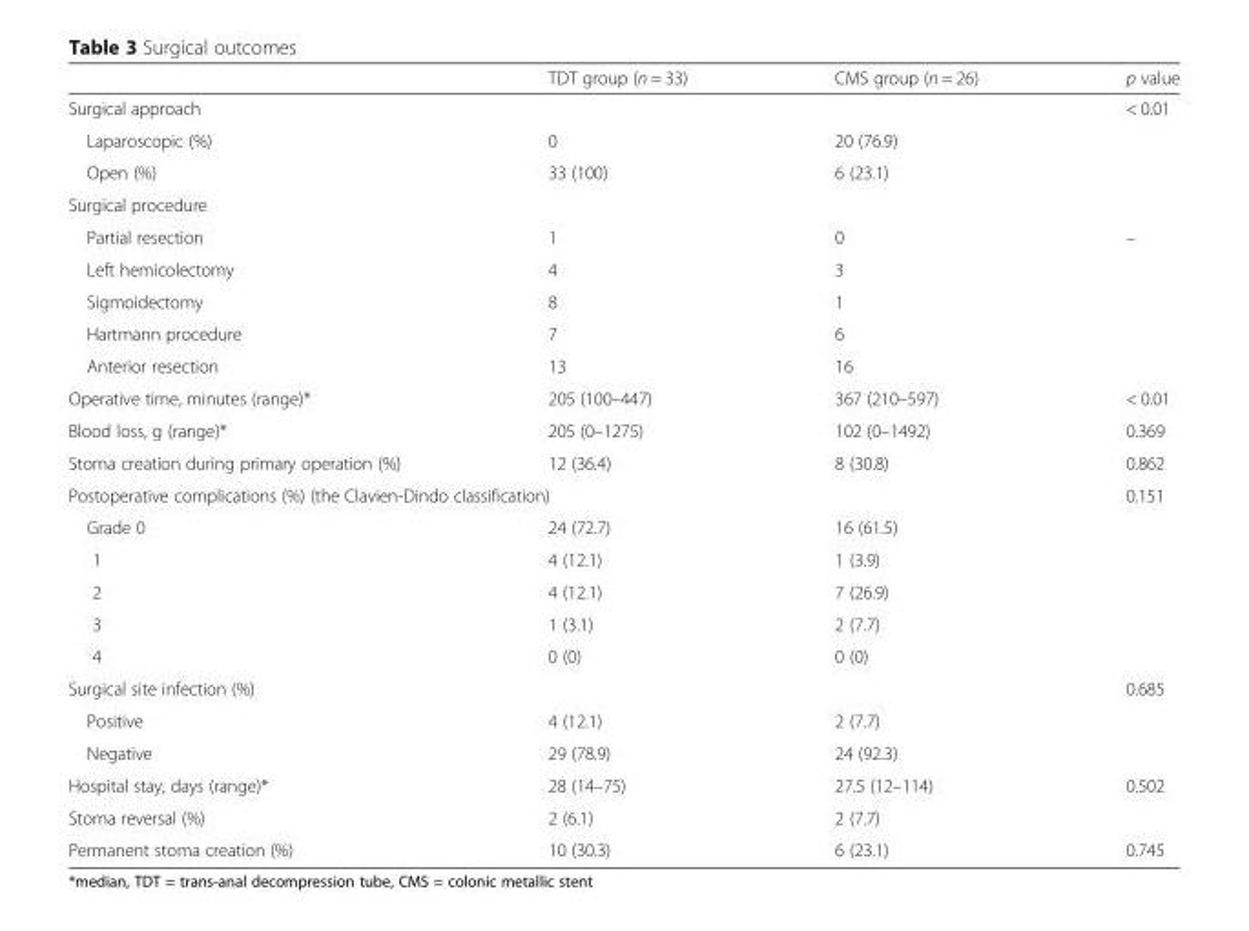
<table><thead><tr><td></td><td>TDT group (n = 33)</td><td>CMS group (n = 26)</td><td>p value</td></tr></thead><tbody><tr><td colspan="3">Surgical approach</td><td>&lt; 0.01</td></tr><tr><td>Laparoscopic (%)</td><td>0</td><td>20 (76.9)</td><td></td></tr><tr><td>Open (%)</td><td>33 (100)</td><td>6 (23.1)</td><td></td></tr><tr><td colspan="4">Surgical procedure</td></tr><tr><td>Partial resection</td><td>1</td><td>0</td><td>–</td></tr><tr><td>Left hemicolectomy</td><td>4</td><td>3</td><td></td></tr><tr><td>Sigmoidectomy</td><td>8</td><td>1</td><td></td></tr><tr><td>Hartmann procedure</td><td>7</td><td>6</td><td></td></tr><tr><td>Anterior resection</td><td>13</td><td>16</td><td></td></tr><tr><td>Operative time, minutes (range)*</td><td>205 (100–447)</td><td>367 (210–597)</td><td>&lt; 0.01</td></tr><tr><td>Blood loss, g (range)*</td><td>205 (0–1275)</td><td>102 (0–1492)</td><td>0.369</td></tr><tr><td>Stoma creation during primary operation (%)</td><td>12 (36.4)</td><td>8 (30.8)</td><td>0.862</td></tr><tr><td colspan="3">Postoperative complications (%) (the Clavien-Dindo classification)</td><td>0.151</td></tr><tr><td>Grade 0</td><td>24 (72.7)</td><td>16 (61.5)</td><td></td></tr><tr><td>1</td><td>4 (12.1)</td><td>1 (3.9)</td><td></td></tr><tr><td>2</td><td>4 (12.1)</td><td>7 (26.9)</td><td></td></tr><tr><td>3</td><td>1 (3.1)</td><td>2 (7.7)</td><td></td></tr><tr><td>4</td><td>0 (0)</td><td>0 (0)</td><td></td></tr><tr><td colspan="3">Surgical site infection (%)</td><td>0.685</td></tr><tr><td>Positive</td><td>4 (12.1)</td><td>2 (7.7)</td><td></td></tr><tr><td>Negative</td><td>29 (78.9)</td><td>24 (92.3)</td><td></td></tr><tr><td>Hospital stay, days (range)*</td><td>28 (14–75)</td><td>27.5 (12–114)</td><td>0.502</td></tr><tr><td>Stoma reversal (%)</td><td>2 (6.1)</td><td>2 (7.7)</td><td></td></tr><tr><td>Permanent stoma creation (%)</td><td>10 (30.3)</td><td>6 (23.1)</td><td>0.745</td></tr></tbody></table>